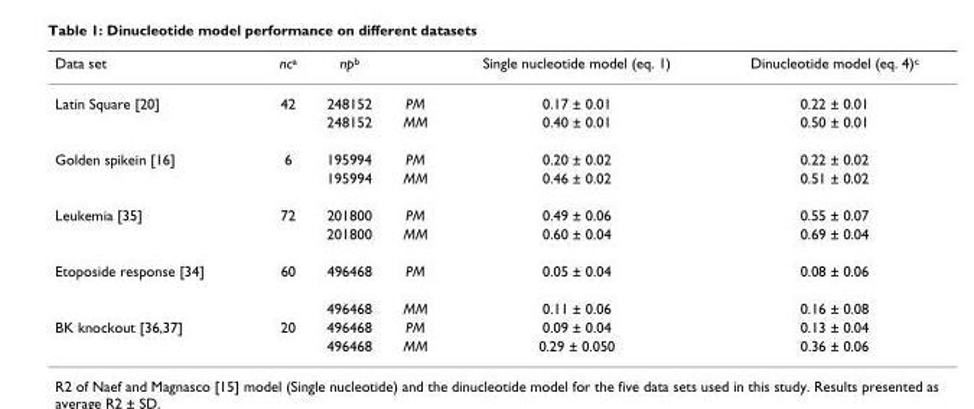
<table><thead><tr><td>Data set</td><td>nc<sup>a</sup></td><td>np<sup>b</sup></td><td></td><td>Single nucleotide model (eq. 1)</td><td>Dinucleotide model (eq. 4)<sup>c</sup></td></tr></thead><tbody><tr><td rowspan="2">Latin Square [20]</td><td>42</td><td>248152</td><td>PM</td><td>0.17 ± 0.01</td><td>0.22 ± 0.01</td></tr><tr><td></td><td>248152</td><td>MM</td><td>0.40 ± 0.01</td><td>0.50 ± 0.01</td></tr><tr><td rowspan="2">Golden spikein [16]</td><td>6</td><td>195994</td><td>PM</td><td>0.20 ± 0.02</td><td>0.22 ± 0.02</td></tr><tr><td></td><td>195994</td><td>MM</td><td>0.46 ± 0.02</td><td>0.51 ± 0.02</td></tr><tr><td rowspan="2">Leukemia [35]</td><td>72</td><td>201800</td><td>PM</td><td>0.49 ± 0.06</td><td>0.55 ± 0.07</td></tr><tr><td></td><td>201800</td><td>MM</td><td>0.60 ± 0.04</td><td>0.69 ± 0.04</td></tr><tr><td rowspan="2">Etoposide response [34]</td><td>60</td><td>496468</td><td>PM</td><td>0.05 ± 0.04</td><td>0.08 ± 0.06</td></tr><tr><td></td><td>496468</td><td>MM</td><td>0.11 ± 0.06</td><td>0.16 ± 0.08</td></tr><tr><td rowspan="2">BK knockout [36,37]</td><td>20</td><td>496468</td><td>PM</td><td>0.09 ± 0.04</td><td>0.13 ± 0.04</td></tr><tr><td></td><td>496468</td><td>MM</td><td>0.29 ± 0.050</td><td>0.36 ± 0.06</td></tr></tbody></table>